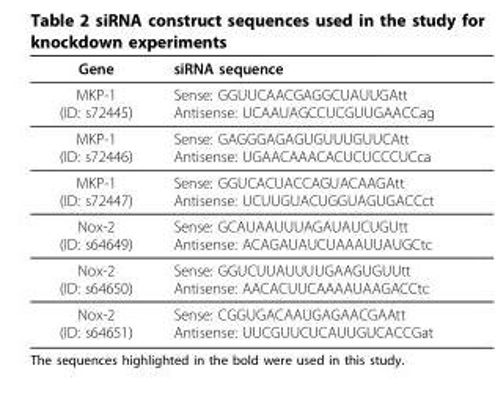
<table><thead><tr><td>Gene</td><td>siRNA sequence</td></tr></thead><tbody><tr><td>MKP-1 (ID: s72445)</td><td>Sense: GGUUCAACGAGGCUAUUGAtt Antisense: UCAAUAGCCUCGUUGAACCag</td></tr><tr><td>MKP-1 (ID: s72446)</td><td>Sense: GAGGGAGAGUGUUUGUUCAtt Antisense: UGAACAAACACUCUCCCUCca</td></tr><tr><td>MKP-1 (ID: s72447)</td><td>Sense: GGUCACUACCAGUACAAGAtt Antisense: UCUUGUACUGGUAGUGACCct</td></tr><tr><td>Nox-2 (ID: s64649)</td><td>Sense: GCAUAAUUUAGAUAUCUGUtt Antisense: ACAGAUAUCUAAAUUAUGCtc</td></tr><tr><td>Nox-2 (ID: s64650)</td><td>Sense: GGUCUUAUUUUGAAGUGUUtt Antisense: AACACUUCAAAAUAAGACCtc</td></tr><tr><td>Nox-2 (ID: s64651)</td><td>Sense: CGGUGACAAUGAGAACGAAtt Antisense: UUCGUUCUCAUUGUCACCGat</td></tr></tbody></table>